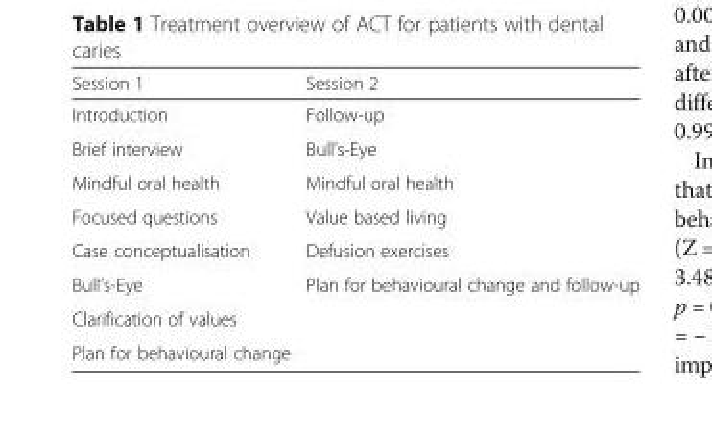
<table><thead><tr><td>Session 1</td><td>Session 2</td></tr></thead><tbody><tr><td>Introduction</td><td>Follow-up</td></tr><tr><td>Brief interview</td><td>Bull’s-Eye</td></tr><tr><td>Mindful oral health</td><td>Mindful oral health</td></tr><tr><td>Focused questions</td><td>Value based living</td></tr><tr><td>Case conceptualisation</td><td>Defusion exercises</td></tr><tr><td>Bull’s-Eye</td><td>Plan for behavioural change and follow-up</td></tr><tr><td colspan="2">Clarification of values</td></tr><tr><td>Plan for behavioural change</td><td></td></tr></tbody></table>